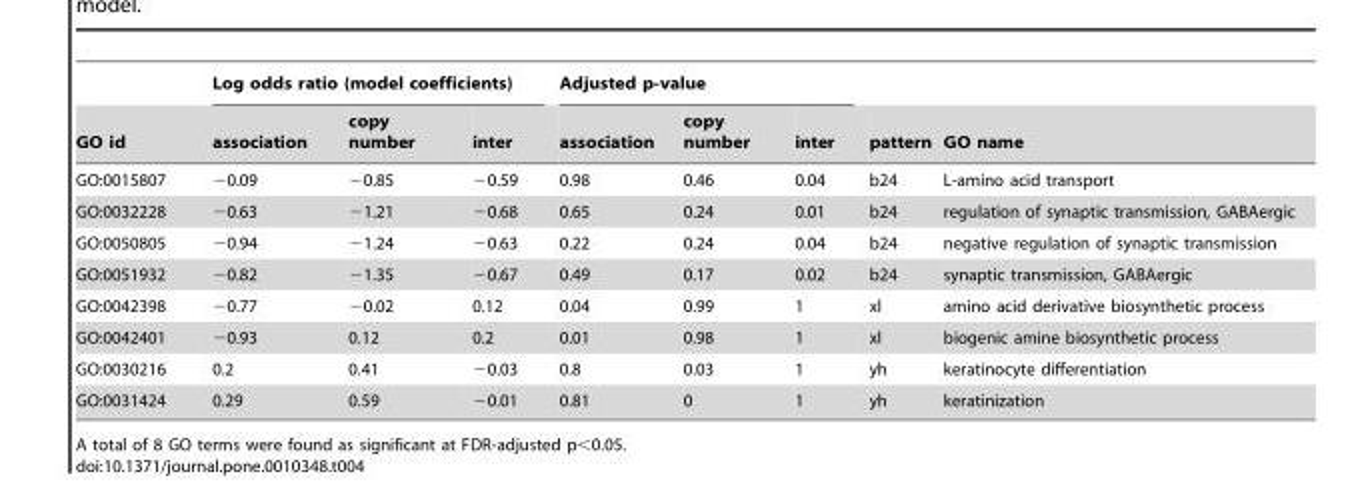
<table><thead><tr><td rowspan="2">GO id</td><td colspan="3">Log odds ratio (model coefficients)</td><td colspan="3">Adjusted p-value</td><td rowspan="2">pattern</td><td rowspan="2">GO name</td></tr><tr><td>association</td><td>copy number</td><td>inter</td><td>association</td><td>copy number</td><td>inter</td></tr></thead><tbody><tr><td>GO:0015807</td><td>−0.09</td><td>−0.85</td><td>−0.59</td><td>0.98</td><td>0.46</td><td>0.04</td><td>b24</td><td>L-amino acid transport</td></tr><tr><td>GO:0032228</td><td>−0.63</td><td>−1.21</td><td>−0.68</td><td>0.65</td><td>0.24</td><td>0.01</td><td>b24</td><td>regulation of synaptic transmission, GABAergic</td></tr><tr><td>GO:0050805</td><td>−0.94</td><td>−1.24</td><td>−0.63</td><td>0.22</td><td>0.24</td><td>0.04</td><td>b24</td><td>negative regulation of synaptic transmission</td></tr><tr><td>GO:0051932</td><td>−0.82</td><td>−1.35</td><td>−0.67</td><td>0.49</td><td>0.17</td><td>0.02</td><td>b24</td><td>synaptic transmission, GABAergic</td></tr><tr><td>GO:0042398</td><td>−0.77</td><td>−0.02</td><td>0.12</td><td>0.04</td><td>0.99</td><td>1</td><td>xl</td><td>amino acid derivative biosynthetic process</td></tr><tr><td>GO:0042401</td><td>−0.93</td><td>0.12</td><td>0.2</td><td>0.01</td><td>0.98</td><td>1</td><td>xl</td><td>biogenic amine biosynthetic process</td></tr><tr><td>GO:0030216</td><td>0.2</td><td>0.41</td><td>−0.03</td><td>0.8</td><td>0.03</td><td>1</td><td>yh</td><td>keratinocyte differentiation</td></tr><tr><td>GO:0031424</td><td>0.29</td><td>0.59</td><td>−0.01</td><td>0.81</td><td>0</td><td>1</td><td>yh</td><td>keratinization</td></tr></tbody></table>